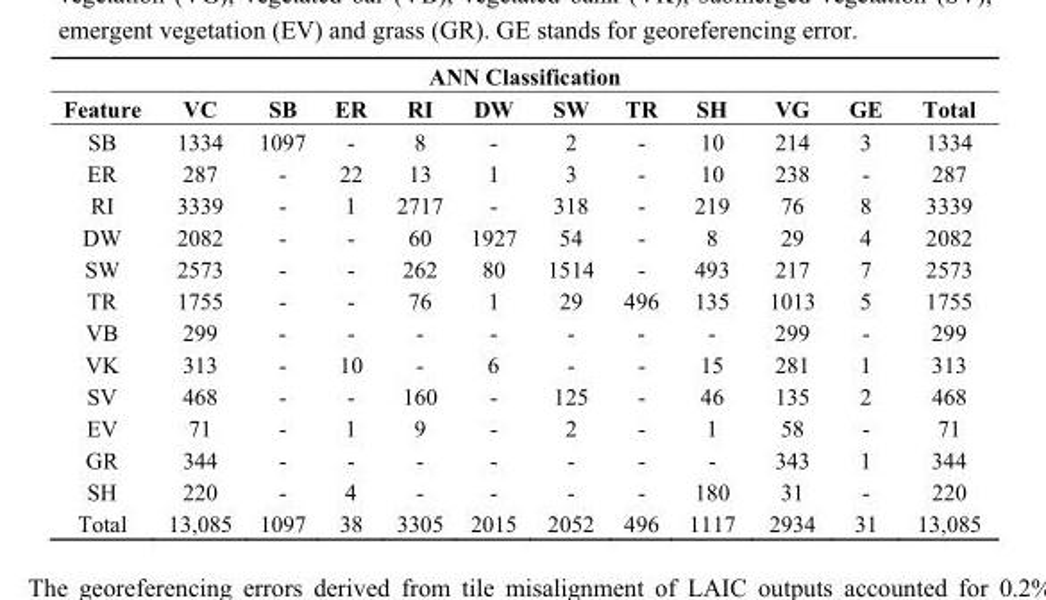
<table><thead><tr><td colspan="12">ANN Classification</td></tr><tr><td>Feature</td><td>VC</td><td>SB</td><td>ER</td><td>RI</td><td>DW</td><td>SW</td><td>TR</td><td>SH</td><td>VG</td><td>GE</td><td>Total</td></tr></thead><tbody><tr><td>SB</td><td>1334</td><td>1097</td><td>-</td><td>8</td><td>-</td><td>2</td><td>-</td><td>10</td><td>214</td><td>3</td><td>1334</td></tr><tr><td>ER</td><td>287</td><td>-</td><td>22</td><td>13</td><td>1</td><td>3</td><td>-</td><td>10</td><td>238</td><td>-</td><td>287</td></tr><tr><td>RI</td><td>3339</td><td>-</td><td>1</td><td>2717</td><td>-</td><td>318</td><td>-</td><td>219</td><td>76</td><td>8</td><td>3339</td></tr><tr><td>DW</td><td>2082</td><td>-</td><td>-</td><td>60</td><td>1927</td><td>54</td><td>-</td><td>8</td><td>29</td><td>4</td><td>2082</td></tr><tr><td>SW</td><td>2573</td><td>-</td><td>-</td><td>262</td><td>80</td><td>1514</td><td>-</td><td>493</td><td>217</td><td>7</td><td>2573</td></tr><tr><td>TR</td><td>1755</td><td>-</td><td>-</td><td>76</td><td>1</td><td>29</td><td>496</td><td>135</td><td>1013</td><td>5</td><td>1755</td></tr><tr><td>VB</td><td>299</td><td>-</td><td>-</td><td>-</td><td>-</td><td>-</td><td>-</td><td>-</td><td>299</td><td>-</td><td>299</td></tr><tr><td>VK</td><td>313</td><td>-</td><td>10</td><td>-</td><td>6</td><td>-</td><td>-</td><td>15</td><td>281</td><td>1</td><td>313</td></tr><tr><td>SV</td><td>468</td><td>-</td><td>-</td><td>160</td><td>-</td><td>125</td><td>-</td><td>46</td><td>135</td><td>2</td><td>468</td></tr><tr><td>EV</td><td>71</td><td>-</td><td>1</td><td>9</td><td>-</td><td>2</td><td>-</td><td>1</td><td>58</td><td>-</td><td>71</td></tr><tr><td>GR</td><td>344</td><td>-</td><td>-</td><td>-</td><td>-</td><td>-</td><td>-</td><td>-</td><td>343</td><td>1</td><td>344</td></tr><tr><td>SH</td><td>220</td><td>-</td><td>4</td><td>-</td><td>-</td><td>-</td><td>-</td><td>180</td><td>31</td><td>-</td><td>220</td></tr><tr><td>Total</td><td>13,085</td><td>1097</td><td>38</td><td>3305</td><td>2015</td><td>2052</td><td>496</td><td>1117</td><td>2934</td><td>31</td><td>13,085</td></tr></tbody></table>